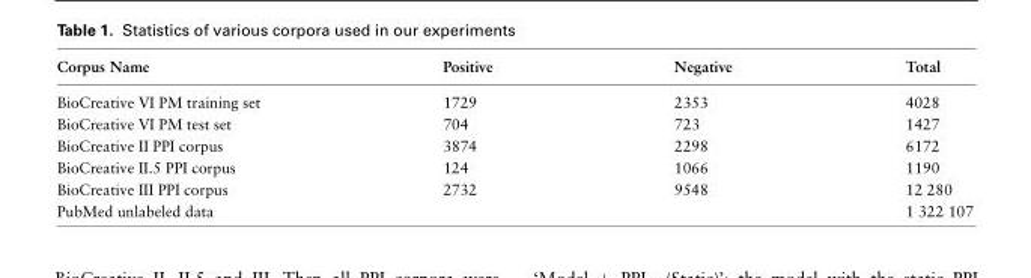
<table><thead><tr><td>Corpus Name</td><td>Positive</td><td>Negative</td><td>Total</td></tr></thead><tbody><tr><td>BioCreative VI PM training set</td><td>1729</td><td>2353</td><td>4028</td></tr><tr><td>BioCreative VI PM test set</td><td>704</td><td>723</td><td>1427</td></tr><tr><td>BioCreative II PPI corpus</td><td>3874</td><td>2298</td><td>6172</td></tr><tr><td>BioCreative II.5 PPI corpus</td><td>124</td><td>1066</td><td>1190</td></tr><tr><td>BioCreative III PPI corpus</td><td>2732</td><td>9548</td><td>12 280</td></tr><tr><td>PubMed unlabeled data</td><td></td><td></td><td>1 322 107</td></tr></tbody></table>